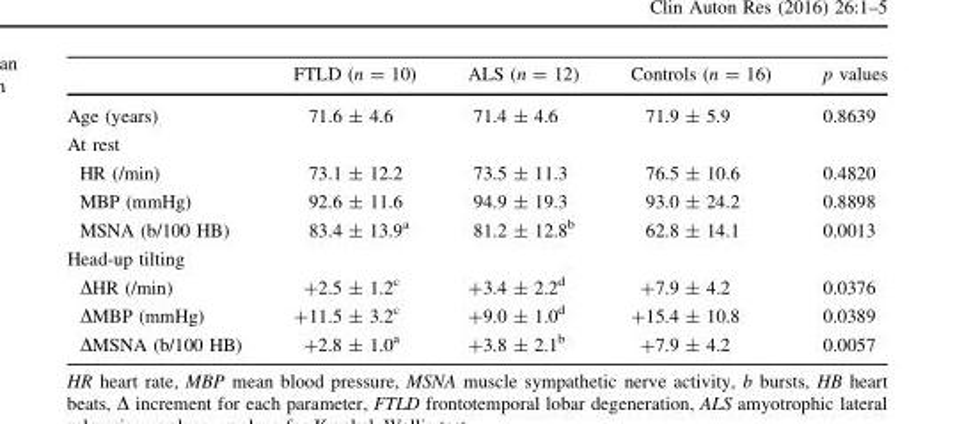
<table><thead><tr><td></td><td>FTLD (n = 10)</td><td>ALS (n = 12)</td><td>Controls (n = 16)</td><td>p values</td></tr></thead><tbody><tr><td>Age (years)</td><td>71.6 ± 4.6</td><td>71.4 ± 4.6</td><td>71.9 ± 5.9</td><td>0.8639</td></tr><tr><td colspan="5">At rest</td></tr><tr><td>HR (/min)</td><td>73.1 ± 12.2</td><td>73.5 ± 11.3</td><td>76.5 ± 10.6</td><td>0.4820</td></tr><tr><td>MBP (mmHg)</td><td>92.6 ± 11.6</td><td>94.9 ± 19.3</td><td>93.0 ± 24.2</td><td>0.8898</td></tr><tr><td>MSNA (b/100 HB)</td><td>83.4 ± 13.9<sup>a</sup></td><td>81.2 ± 12.8<sup>b</sup></td><td>62.8 ± 14.1</td><td>0.0013</td></tr><tr><td colspan="5">Head-up tilting</td></tr><tr><td>ΔHR (/min)</td><td>+2.5 ± 1.2<sup>c</sup></td><td>+3.4 ± 2.2<sup>d</sup></td><td>+7.9 ± 4.2</td><td>0.0376</td></tr><tr><td>ΔMBP (mmHg)</td><td>+11.5 ± 3.2<sup>c</sup></td><td>+9.0 ± 1.0<sup>d</sup></td><td>+15.4 ± 10.8</td><td>0.0389</td></tr><tr><td>ΔMSNA (b/100 HB)</td><td>+2.8 ± 1.0<sup>a</sup></td><td>+3.8 ± 2.1<sup>b</sup></td><td>+7.9 ± 4.2</td><td>0.0057</td></tr></tbody></table>